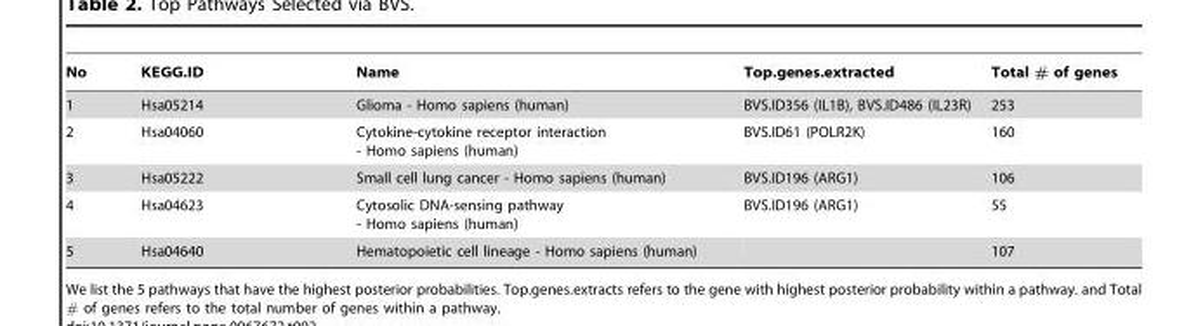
<table><thead><tr><td>No</td><td>KEGG.ID</td><td>Name</td><td>Top.genes.extracted</td><td>Total # of genes</td></tr></thead><tbody><tr><td>1</td><td>Hsa05214</td><td>Glioma - Homo sapiens (human)</td><td>BVS.ID356 (IL1B), BVS.ID486 (IL23R)</td><td>253</td></tr><tr><td>2</td><td>Hsa04060</td><td>Cytokine-cytokine receptor interaction - Homo sapiens (human)</td><td>BVS.ID61 (POLR2K)</td><td>160</td></tr><tr><td>3</td><td>Hsa05222</td><td>Small cell lung cancer - Homo sapiens (human)</td><td>BVS.ID196 (ARG1)</td><td>106</td></tr><tr><td>4</td><td>Hsa04623</td><td>Cytosolic DNA-sensing pathway - Homo sapiens (human)</td><td>BVS.ID196 (ARG1)</td><td>55</td></tr><tr><td>5</td><td>Hsa04640</td><td>Hematopoietic cell lineage - Homo sapiens (human)</td><td></td><td>107</td></tr></tbody></table>